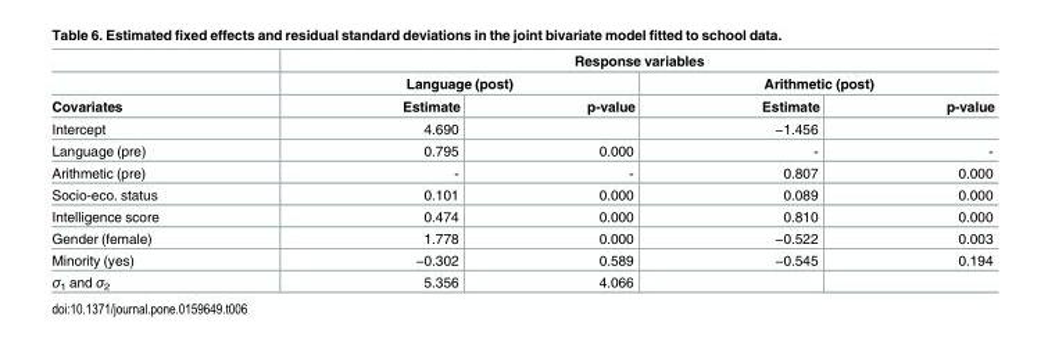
<table><thead><tr><td rowspan="3">Covariates</td><td colspan="4">Response variables</td></tr><tr><td colspan="2">Language (post)</td><td colspan="2">Arithmetic (post)</td></tr><tr><td>Estimate</td><td>p-value</td><td>Estimate</td><td>p-value</td></tr></thead><tbody><tr><td>Intercept</td><td>4.690</td><td></td><td>−1.456</td><td></td></tr><tr><td>Language (pre)</td><td>0.795</td><td>0.000</td><td>-</td><td>-</td></tr><tr><td>Arithmetic (pre)</td><td>-</td><td>-</td><td>0.807</td><td>0.000</td></tr><tr><td>Socio-eco. status</td><td>0.101</td><td>0.000</td><td>0.089</td><td>0.000</td></tr><tr><td>Intelligence score</td><td>0.474</td><td>0.000</td><td>0.810</td><td>0.000</td></tr><tr><td>Gender (female)</td><td>1.778</td><td>0.000</td><td>−0.522</td><td>0.003</td></tr><tr><td>Minority (yes)</td><td>−0.302</td><td>0.589</td><td>−0.545</td><td>0.194</td></tr><tr><td>σ<sub>1</sub> and σ<sub>2</sub></td><td>5.356</td><td>4.066</td><td></td><td></td></tr></tbody></table>